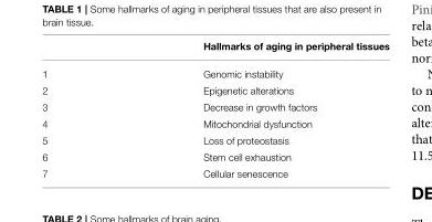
<table><thead><tr><td></td><td>Hallmarks of aging in peripheral tissues</td></tr></thead><tbody><tr><td>1</td><td>Genomic instability</td></tr><tr><td>2</td><td>Epigenetic alterations</td></tr><tr><td>3</td><td>Decrease in growth factors</td></tr><tr><td>4</td><td>Mitochondrial dysfunction</td></tr><tr><td>5</td><td>Loss of proteostasis</td></tr><tr><td>6</td><td>Stem cell exhaustion</td></tr><tr><td>7</td><td>Cellular senescence</td></tr></tbody></table>